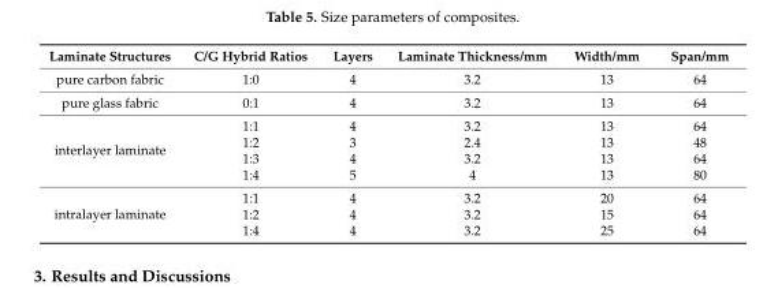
<table><thead><tr><td>Laminate Structures</td><td>C/G Hybrid Ratios</td><td>Layers</td><td>Laminate Thickness/mm</td><td>Width/mm</td><td>Span/mm</td></tr></thead><tbody><tr><td>pure carbon fabric</td><td>1:0</td><td>4</td><td>3.2</td><td>13</td><td>64</td></tr><tr><td>pure glass fabric</td><td>0:1</td><td>4</td><td>3.2</td><td>13</td><td>64</td></tr><tr><td rowspan="4">interlayer laminate</td><td>1:1</td><td>4</td><td>3.2</td><td>13</td><td>64</td></tr><tr><td>1:2</td><td>3</td><td>2.4</td><td>13</td><td>48</td></tr><tr><td>1:3</td><td>4</td><td>3.2</td><td>13</td><td>64</td></tr><tr><td>1:4</td><td>5</td><td>4</td><td>13</td><td>80</td></tr><tr><td rowspan="3">intralayer laminate</td><td>1:1</td><td>4</td><td>3.2</td><td>20</td><td>64</td></tr><tr><td>1:2</td><td>4</td><td>3.2</td><td>15</td><td>64</td></tr><tr><td>1:4</td><td>4</td><td>3.2</td><td>25</td><td>64</td></tr></tbody></table>